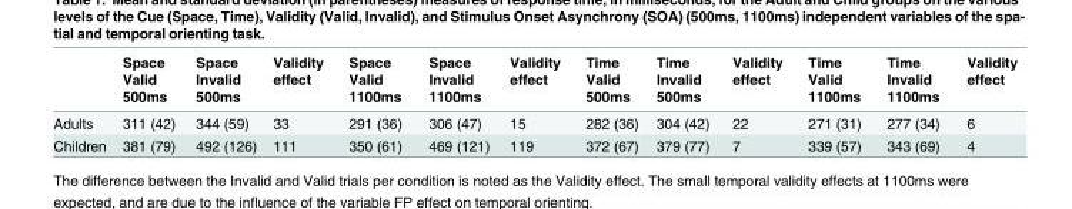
<table><thead><tr><td></td><td>Space Valid 500ms</td><td>Space Invalid 500ms</td><td>Validity effect</td><td>Space Valid 1100ms</td><td>Space Invalid 1100ms</td><td>Validity effect</td><td>Time Valid 500ms</td><td>Time Invalid 500ms</td><td>Validity effect</td><td>Time Valid 1100ms</td><td>Time Invalid 1100ms</td><td>Validity effect</td></tr></thead><tbody><tr><td>Adults</td><td>311 (42)</td><td>344 (59)</td><td>33</td><td>291 (36)</td><td>306 (47)</td><td>15</td><td>282 (36)</td><td>304 (42)</td><td>22</td><td>271 (31)</td><td>277 (34)</td><td>6</td></tr><tr><td>Children</td><td>381 (79)</td><td>492 (126)</td><td>111</td><td>350 (61)</td><td>469 (121)</td><td>119</td><td>372 (67)</td><td>379 (77)</td><td>7</td><td>339 (57)</td><td>343 (69)</td><td>4</td></tr></tbody></table>